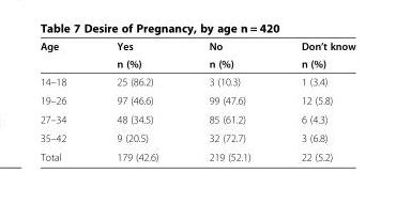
<table><thead><tr><td rowspan="2">Age</td><td rowspan="2">Yes n (%)</td><td rowspan="2">No n (%)</td><td rowspan="2">Don’t know n (%)</td></tr><tr></tr></thead><tbody><tr><td>14–18</td><td>25 (86.2)</td><td>3 (10.3)</td><td>1 (3.4)</td></tr><tr><td>19–26</td><td>97 (46.6)</td><td>99 (47.6)</td><td>12 (5.8)</td></tr><tr><td>27–34</td><td>48 (34.5)</td><td>85 (61.2)</td><td>6 (4.3)</td></tr><tr><td>35–42</td><td>9 (20.5)</td><td>32 (72.7)</td><td>3 (6.8)</td></tr><tr><td>Total</td><td>179 (42.6)</td><td>219 (52.1)</td><td>22 (5.2)</td></tr></tbody></table>